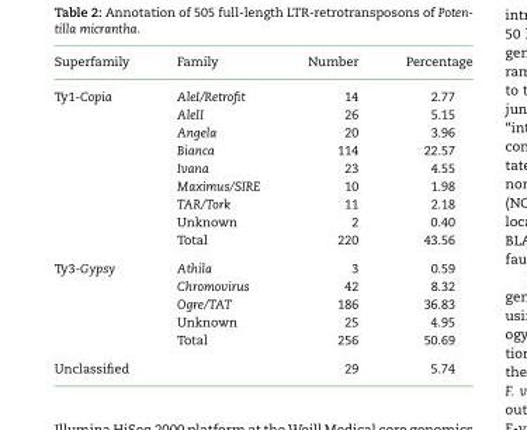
<table><thead><tr><td>Superfamily</td><td>Family</td><td>Number</td><td>Percentage</td></tr></thead><tbody><tr><td rowspan="9">Ty1-Copia</td><td>AleI/Retrofit</td><td>14</td><td>2.77</td></tr><tr><td>AleII</td><td>26</td><td>5.15</td></tr><tr><td>Angela</td><td>20</td><td>3.96</td></tr><tr><td>Bianca</td><td>114</td><td>22.57</td></tr><tr><td>Ivana</td><td>23</td><td>4.55</td></tr><tr><td>Maximus/SIRE</td><td>10</td><td>1.98</td></tr><tr><td>TAR/Tork</td><td>11</td><td>2.18</td></tr><tr><td>Unknown</td><td>2</td><td>0.40</td></tr><tr><td>Total</td><td>220</td><td>43.56</td></tr><tr><td rowspan="5">Ty3-Gypsy</td><td>Athila</td><td>3</td><td>0.59</td></tr><tr><td>Chromovirus</td><td>42</td><td>8.32</td></tr><tr><td>Ogre/TAT</td><td>186</td><td>36.83</td></tr><tr><td>Unknown</td><td>25</td><td>4.95</td></tr><tr><td>Total</td><td>256</td><td>50.69</td></tr><tr><td>Unclassified</td><td></td><td>29</td><td>5.74</td></tr></tbody></table>